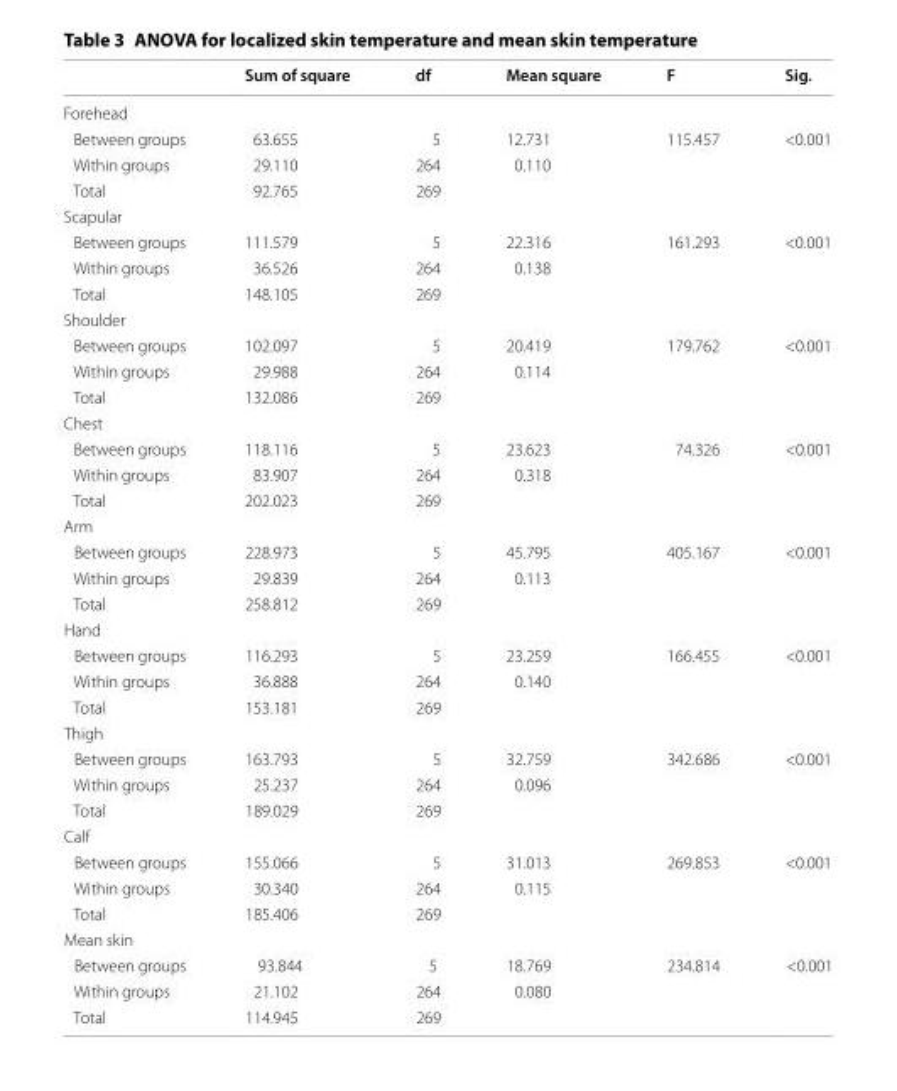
<table><thead><tr><td></td><td>Sum of square</td><td>df</td><td>Mean square</td><td>F</td><td>Sig.</td></tr></thead><tbody><tr><td colspan="6">Forehead</td></tr><tr><td>Between groups</td><td>63.655</td><td>5</td><td>12.731</td><td>115.457</td><td>&lt;0.001</td></tr><tr><td>Within groups</td><td>29.110</td><td>264</td><td>0.110</td><td></td><td></td></tr><tr><td>Total</td><td>92.765</td><td>269</td><td></td><td></td><td></td></tr><tr><td colspan="6">Scapular</td></tr><tr><td>Between groups</td><td>111.579</td><td>5</td><td>22.316</td><td>161.293</td><td>&lt;0.001</td></tr><tr><td>Within groups</td><td>36.526</td><td>264</td><td>0.138</td><td></td><td></td></tr><tr><td>Total</td><td>148.105</td><td>269</td><td></td><td></td><td></td></tr><tr><td colspan="6">Shoulder</td></tr><tr><td>Between groups</td><td>102.097</td><td>5</td><td>20.419</td><td>179.762</td><td>&lt;0.001</td></tr><tr><td>Within groups</td><td>29.988</td><td>264</td><td>0.114</td><td></td><td></td></tr><tr><td>Total</td><td>132.086</td><td>269</td><td></td><td></td><td></td></tr><tr><td colspan="6">Chest</td></tr><tr><td>Between groups</td><td>118.116</td><td>5</td><td>23.623</td><td>74.326</td><td>&lt;0.001</td></tr><tr><td>Within groups</td><td>83.907</td><td>264</td><td>0.318</td><td></td><td></td></tr><tr><td>Total</td><td>202.023</td><td>269</td><td></td><td></td><td></td></tr><tr><td colspan="6">Arm</td></tr><tr><td>Between groups</td><td>228.973</td><td>5</td><td>45.795</td><td>405.167</td><td>&lt;0.001</td></tr><tr><td>Within groups</td><td>29.839</td><td>264</td><td>0.113</td><td></td><td></td></tr><tr><td>Total</td><td>258.812</td><td>269</td><td></td><td></td><td></td></tr><tr><td colspan="6">Hand</td></tr><tr><td>Between groups</td><td>116.293</td><td>5</td><td>23.259</td><td>166.455</td><td>&lt;0.001</td></tr><tr><td>Within groups</td><td>36.888</td><td>264</td><td>0.140</td><td></td><td></td></tr><tr><td>Total</td><td>153.181</td><td>269</td><td></td><td></td><td></td></tr><tr><td colspan="6">Thigh</td></tr><tr><td>Between groups</td><td>163.793</td><td>5</td><td>32.759</td><td>342.686</td><td>&lt;0.001</td></tr><tr><td>Within groups</td><td>25.237</td><td>264</td><td>0.096</td><td></td><td></td></tr><tr><td>Total</td><td>189.029</td><td>269</td><td></td><td></td><td></td></tr><tr><td colspan="6">Calf</td></tr><tr><td>Between groups</td><td>155.066</td><td>5</td><td>31.013</td><td>269.853</td><td>&lt;0.001</td></tr><tr><td>Within groups</td><td>30.340</td><td>264</td><td>0.115</td><td></td><td></td></tr><tr><td>Total</td><td>185.406</td><td>269</td><td></td><td></td><td></td></tr><tr><td colspan="6">Mean skin</td></tr><tr><td>Between groups</td><td>93.844</td><td>5</td><td>18.769</td><td>234.814</td><td>&lt;0.001</td></tr><tr><td>Within groups</td><td>21.102</td><td>264</td><td>0.080</td><td></td><td></td></tr><tr><td>Total</td><td>114.945</td><td>269</td><td></td><td></td><td></td></tr></tbody></table>